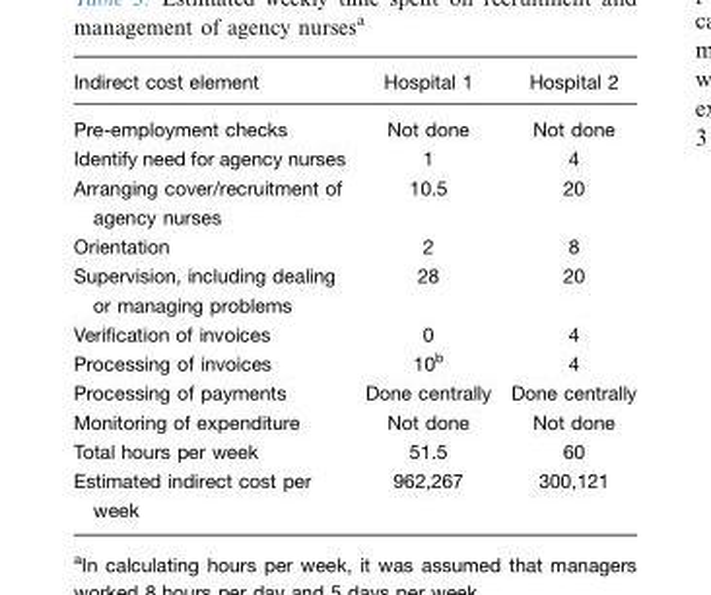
<table><thead><tr><td>Indirect cost element</td><td>Hospital 1</td><td>Hospital 2</td></tr></thead><tbody><tr><td>Pre-employment checks</td><td>Not done</td><td>Not done</td></tr><tr><td>Identify need for agency nurses</td><td>1</td><td>4</td></tr><tr><td>Arranging cover/recruitment of agency nurses</td><td>10.5</td><td>20</td></tr><tr><td>Orientation</td><td>2</td><td>8</td></tr><tr><td>Supervision, including dealing or managing problems</td><td>28</td><td>20</td></tr><tr><td>Verification of invoices</td><td>0</td><td>4</td></tr><tr><td>Processing of invoices</td><td>10<sup>b</sup></td><td>4</td></tr><tr><td>Processing of payments</td><td>Done centrally</td><td>Done centrally</td></tr><tr><td>Monitoring of expenditure</td><td>Not done</td><td>Not done</td></tr><tr><td>Total hours per week</td><td>51.5</td><td>60</td></tr><tr><td>Estimated indirect cost per week</td><td>962,267</td><td>300,121</td></tr></tbody></table>